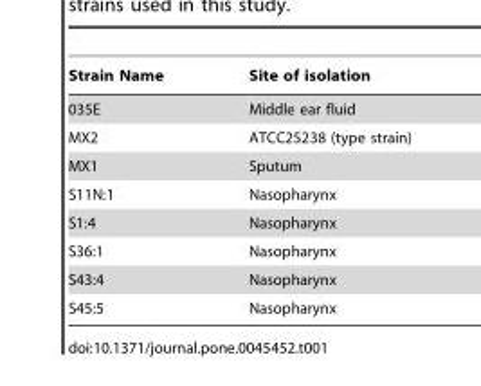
<table><thead><tr><td>Strain Name</td><td>Site of isolation</td></tr></thead><tbody><tr><td>035E</td><td>Middle ear fluid</td></tr><tr><td>MX2</td><td>ATCC25238 (type strain)</td></tr><tr><td>MX1</td><td>Sputum</td></tr><tr><td>S11N:1</td><td>Nasopharynx</td></tr><tr><td>S1:4</td><td>Nasopharynx</td></tr><tr><td>S36:1</td><td>Nasopharynx</td></tr><tr><td>S43:4</td><td>Nasopharynx</td></tr><tr><td>S45:5</td><td>Nasopharynx</td></tr></tbody></table>